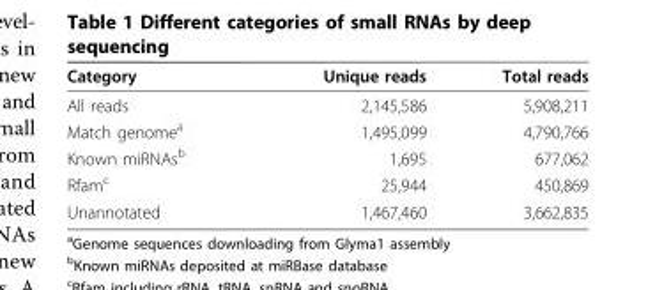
<table><thead><tr><td>Category</td><td>Unique reads</td><td>Total reads</td></tr></thead><tbody><tr><td>All reads</td><td>2,145,586</td><td>5,908,211</td></tr><tr><td>Match genome<sup>a</sup></td><td>1,495,099</td><td>4,790,766</td></tr><tr><td>Known miRNAs<sup>b</sup></td><td>1,695</td><td>677,062</td></tr><tr><td>Rfam<sup>c</sup></td><td>25,944</td><td>450,869</td></tr><tr><td>Unannotated</td><td>1,467,460</td><td>3,662,835</td></tr></tbody></table>